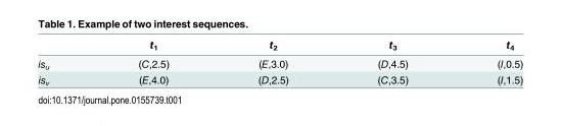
<table><thead><tr><td></td><td>t<sub>1</sub></td><td>t<sub>2</sub></td><td>t<sub>3</sub></td><td>t<sub>4</sub></td></tr></thead><tbody><tr><td>is<sub>u</sub></td><td>(C,2.5)</td><td>(E,3.0)</td><td>(D,4.5)</td><td>(I,0.5)</td></tr><tr><td>is<sub>v</sub></td><td>(E,4.0)</td><td>(D,2.5)</td><td>(C,3.5)</td><td>(I,1.5)</td></tr></tbody></table>